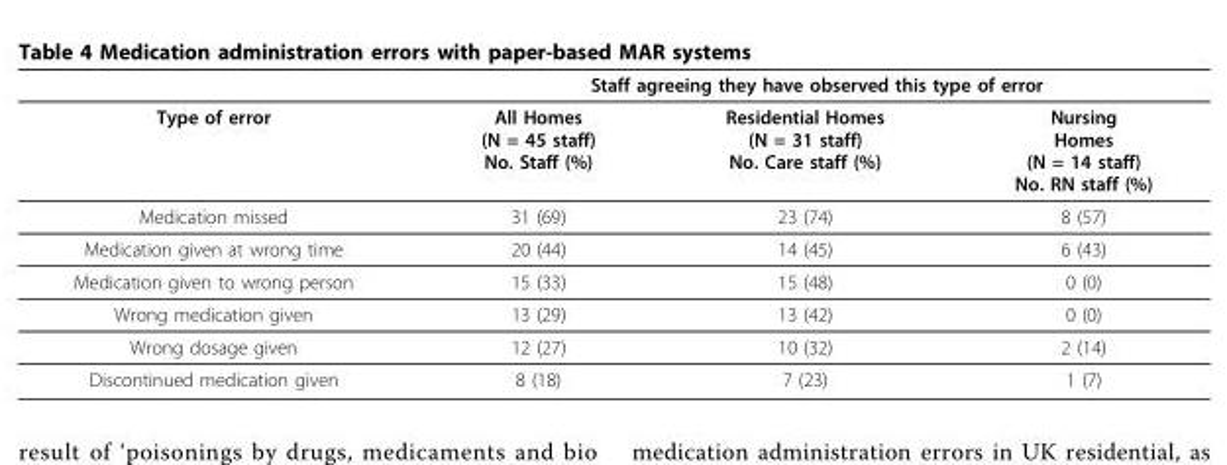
<table><thead><tr><td rowspan="2">Type of error</td><td colspan="3">Staff agreeing they have observed this type of error</td></tr><tr><td>All Homes (N = 45 staff) No. Staff (%)</td><td>Residential Homes (N = 31 staff) No. Care staff (%)</td><td>Nursing Homes (N = 14 staff) No. RN staff (%)</td></tr></thead><tbody><tr><td>Medication missed</td><td>31 (69)</td><td>23 (74)</td><td>8 (57)</td></tr><tr><td>Medication given at wrong time</td><td>20 (44)</td><td>14 (45)</td><td>6 (43)</td></tr><tr><td>Medication given to wrong person</td><td>15 (33)</td><td>15 (48)</td><td>0 (0)</td></tr><tr><td>Wrong medication given</td><td>13 (29)</td><td>13 (42)</td><td>0 (0)</td></tr><tr><td>Wrong dosage given</td><td>12 (27)</td><td>10 (32)</td><td>2 (14)</td></tr><tr><td>Discontinued medication given</td><td>8 (18)</td><td>7 (23)</td><td>1 (7)</td></tr></tbody></table>